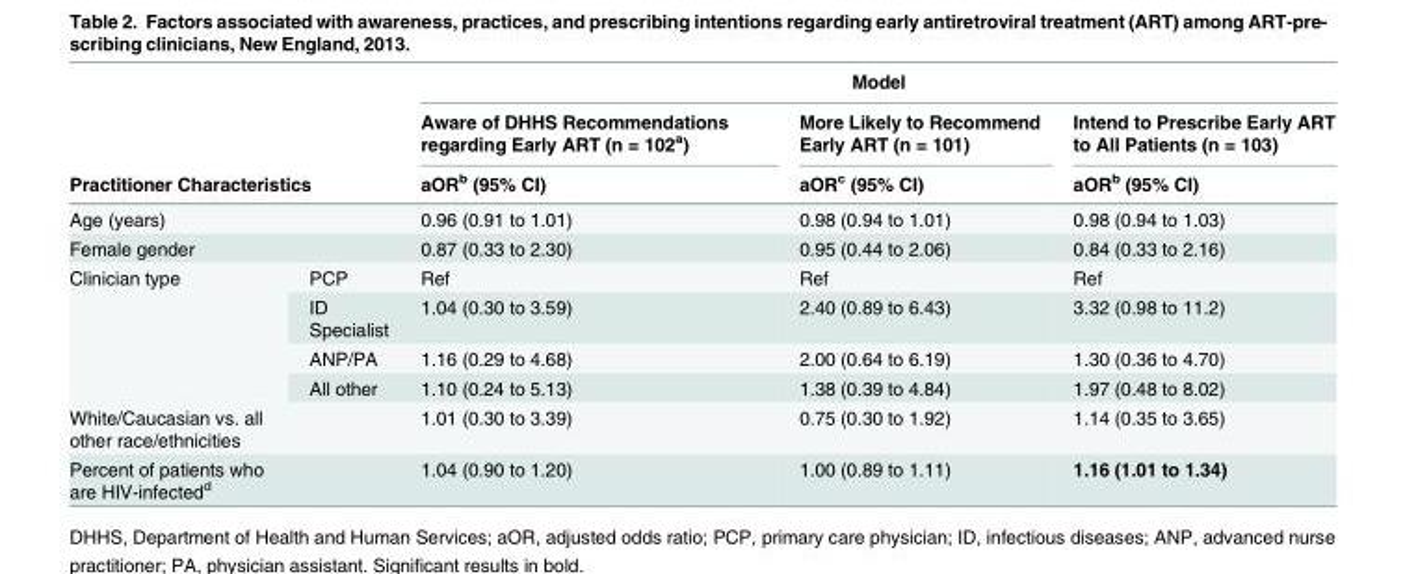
<table><thead><tr><td rowspan="2"></td><td rowspan="2"></td><td colspan="3">Model</td></tr><tr><td rowspan="2">Aware of DHHS Recommendations regarding Early ART (n = 102<sup>a</sup>) aOR<sup>b</sup> (95% CI)</td><td rowspan="2">More Likely to Recommend Early ART (n = 101) aOR<sup>c</sup> (95% CI)</td><td rowspan="2">Intend to Prescribe Early ART to All Patients (n = 103) aOR<sup>b</sup> (95% CI)</td></tr><tr><td colspan="2">Practitioner Characteristics</td></tr></thead><tbody><tr><td>Age (years)</td><td></td><td>0.96 (0.91 to 1.01)</td><td>0.98 (0.94 to 1.01)</td><td>0.98 (0.94 to 1.03)</td></tr><tr><td>Female gender</td><td></td><td>0.87 (0.33 to 2.30)</td><td>0.95 (0.44 to 2.06)</td><td>0.84 (0.33 to 2.16)</td></tr><tr><td rowspan="4">Clinician type</td><td>PCP</td><td>Ref</td><td>Ref</td><td>Ref</td></tr><tr><td>ID Specialist</td><td>1.04 (0.30 to 3.59)</td><td>2.40 (0.89 to 6.43)</td><td>3.32 (0.98 to 11.2)</td></tr><tr><td>ANP/PA</td><td>1.16 (0.29 to 4.68)</td><td>2.00 (0.64 to 6.19)</td><td>1.30 (0.36 to 4.70)</td></tr><tr><td>All other</td><td>1.10 (0.24 to 5.13)</td><td>1.38 (0.39 to 4.84)</td><td>1.97 (0.48 to 8.02)</td></tr><tr><td>White/Caucasian vs. all other race/ethnicities</td><td></td><td>1.01 (0.30 to 3.39)</td><td>0.75 (0.30 to 1.92)</td><td>1.14 (0.35 to 3.65)</td></tr><tr><td>Percent of patients who are HIV-infected<sup>d</sup></td><td></td><td>1.04 (0.90 to 1.20)</td><td>1.00 (0.89 to 1.11)</td><td>1.16 (1.01 to 1.34)</td></tr></tbody></table>